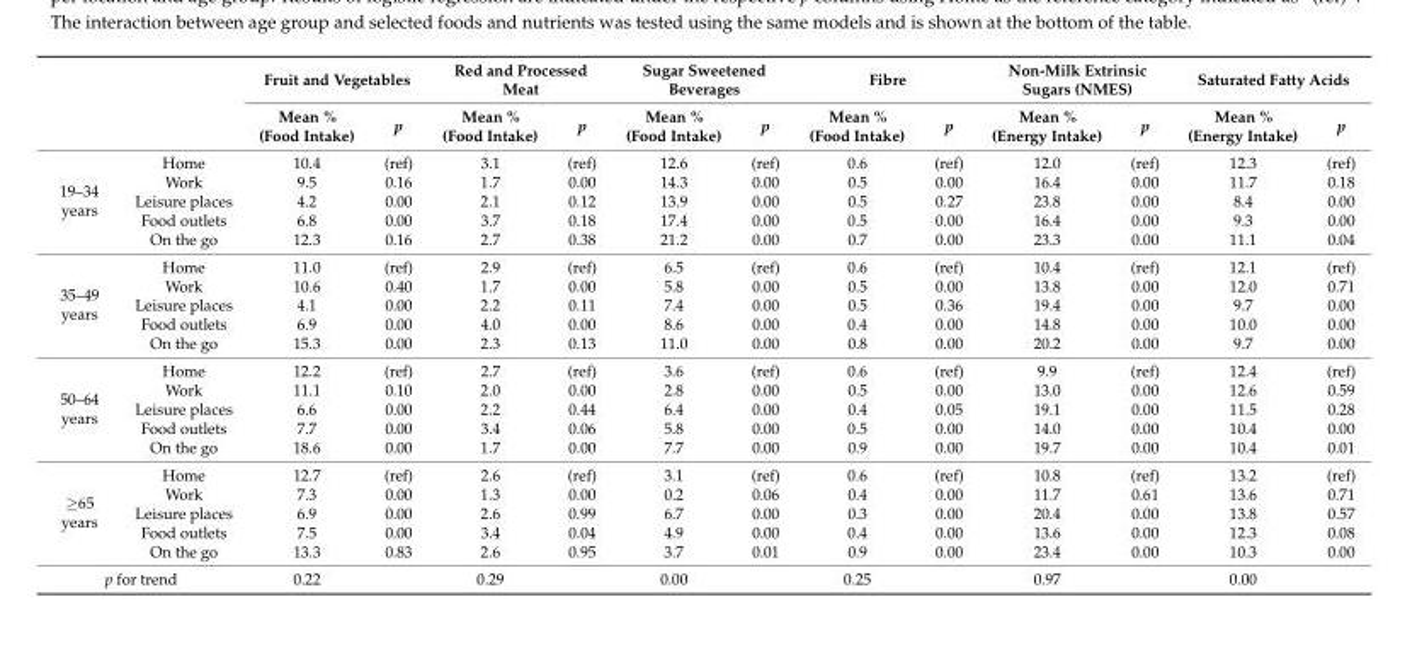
<table><thead><tr><td rowspan="2"></td><td rowspan="2"></td><td colspan="2">Fruit and Vegetables</td><td colspan="2">Red and Processed Meat</td><td colspan="2">Sugar Sweetened Beverages</td><td colspan="2">Fibre</td><td colspan="2">Non-Milk Extrinsic Sugars (NMES)</td><td colspan="2">Saturated Fatty Acids</td></tr><tr><td>Mean % (Food Intake)</td><td>p</td><td>Mean % (Food Intake)</td><td>p</td><td>Mean % (Food Intake)</td><td>p</td><td>Mean % (Food Intake)</td><td>p</td><td>Mean % (Energy Intake)</td><td>p</td><td>Mean % (Energy Intake)</td><td>p</td></tr></thead><tbody><tr><td rowspan="5">19–34 years</td><td>Home</td><td>10.4</td><td>(ref)</td><td>3.1</td><td>(ref)</td><td>12.6</td><td>(ref)</td><td>0.6</td><td>(ref)</td><td>12.0</td><td>(ref)</td><td>12.3</td><td>(ref)</td></tr><tr><td>Work</td><td>9.5</td><td>0.16</td><td>1.7</td><td>0.00</td><td>14.3</td><td>0.00</td><td>0.5</td><td>0.00</td><td>16.4</td><td>0.00</td><td>11.7</td><td>0.18</td></tr><tr><td>Leisure places</td><td>4.2</td><td>0.00</td><td>2.1</td><td>0.12</td><td>13.9</td><td>0.00</td><td>0.5</td><td>0.27</td><td>23.8</td><td>0.00</td><td>8.4</td><td>0.00</td></tr><tr><td>Food outlets</td><td>6.8</td><td>0.00</td><td>3.7</td><td>0.18</td><td>17.4</td><td>0.00</td><td>0.5</td><td>0.00</td><td>16.4</td><td>0.00</td><td>9.3</td><td>0.00</td></tr><tr><td>On the go</td><td>12.3</td><td>0.16</td><td>2.7</td><td>0.38</td><td>21.2</td><td>0.00</td><td>0.7</td><td>0.00</td><td>23.3</td><td>0.00</td><td>11.1</td><td>0.04</td></tr><tr><td rowspan="5">35–49 years</td><td>Home</td><td>11.0</td><td>(ref)</td><td>2.9</td><td>(ref)</td><td>6.5</td><td>(ref)</td><td>0.6</td><td>(ref)</td><td>10.4</td><td>(ref)</td><td>12.1</td><td>(ref)</td></tr><tr><td>Work</td><td>10.6</td><td>0.40</td><td>1.7</td><td>0.00</td><td>5.8</td><td>0.00</td><td>0.5</td><td>0.00</td><td>13.8</td><td>0.00</td><td>12.0</td><td>0.71</td></tr><tr><td>Leisure places</td><td>4.1</td><td>0.00</td><td>2.2</td><td>0.11</td><td>7.4</td><td>0.00</td><td>0.5</td><td>0.36</td><td>19.4</td><td>0.00</td><td>9.7</td><td>0.00</td></tr><tr><td>Food outlets</td><td>6.9</td><td>0.00</td><td>4.0</td><td>0.00</td><td>8.6</td><td>0.00</td><td>0.4</td><td>0.00</td><td>14.8</td><td>0.00</td><td>10.0</td><td>0.00</td></tr><tr><td>On the go</td><td>15.3</td><td>0.00</td><td>2.3</td><td>0.13</td><td>11.0</td><td>0.00</td><td>0.8</td><td>0.00</td><td>20.2</td><td>0.00</td><td>9.7</td><td>0.00</td></tr><tr><td rowspan="5">50–64 years</td><td>Home</td><td>12.2</td><td>(ref)</td><td>2.7</td><td>(ref)</td><td>3.6</td><td>(ref)</td><td>0.6</td><td>(ref)</td><td>9.9</td><td>(ref)</td><td>12.4</td><td>(ref)</td></tr><tr><td>Work</td><td>11.1</td><td>0.10</td><td>2.0</td><td>0.00</td><td>2.8</td><td>0.00</td><td>0.5</td><td>0.00</td><td>13.0</td><td>0.00</td><td>12.6</td><td>0.59</td></tr><tr><td>Leisure places</td><td>6.6</td><td>0.00</td><td>2.2</td><td>0.44</td><td>6.4</td><td>0.00</td><td>0.4</td><td>0.05</td><td>19.1</td><td>0.00</td><td>11.5</td><td>0.28</td></tr><tr><td>Food outlets</td><td>7.7</td><td>0.00</td><td>3.4</td><td>0.06</td><td>5.8</td><td>0.00</td><td>0.5</td><td>0.00</td><td>14.0</td><td>0.00</td><td>10.4</td><td>0.00</td></tr><tr><td>On the go</td><td>18.6</td><td>0.00</td><td>1.7</td><td>0.00</td><td>7.7</td><td>0.00</td><td>0.9</td><td>0.00</td><td>19.7</td><td>0.00</td><td>10.4</td><td>0.01</td></tr><tr><td rowspan="5">≥65 years</td><td>Home</td><td>12.7</td><td>(ref)</td><td>2.6</td><td>(ref)</td><td>3.1</td><td>(ref)</td><td>0.6</td><td>(ref)</td><td>10.8</td><td>(ref)</td><td>13.2</td><td>(ref)</td></tr><tr><td>Work</td><td>7.3</td><td>0.00</td><td>1.3</td><td>0.00</td><td>0.2</td><td>0.06</td><td>0.4</td><td>0.00</td><td>11.7</td><td>0.61</td><td>13.6</td><td>0.71</td></tr><tr><td>Leisure places</td><td>6.9</td><td>0.00</td><td>2.6</td><td>0.99</td><td>6.7</td><td>0.00</td><td>0.3</td><td>0.00</td><td>20.4</td><td>0.00</td><td>13.8</td><td>0.57</td></tr><tr><td>Food outlets</td><td>7.5</td><td>0.00</td><td>3.4</td><td>0.04</td><td>4.9</td><td>0.00</td><td>0.4</td><td>0.00</td><td>13.6</td><td>0.00</td><td>12.3</td><td>0.08</td></tr><tr><td>On the go</td><td>13.3</td><td>0.83</td><td>2.6</td><td>0.95</td><td>3.7</td><td>0.01</td><td>0.9</td><td>0.00</td><td>23.4</td><td>0.00</td><td>10.3</td><td>0.00</td></tr><tr><td colspan="2">p for trend</td><td>0.22</td><td></td><td>0.29</td><td></td><td>0.00</td><td></td><td>0.25</td><td></td><td>0.97</td><td></td><td>0.00</td><td></td></tr></tbody></table>